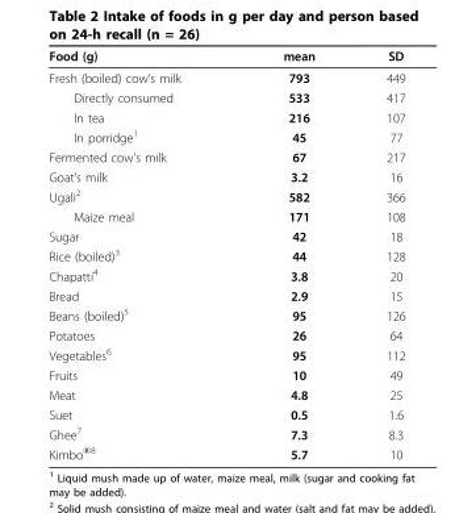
<table><thead><tr><td>Food (g)</td><td>mean</td><td>SD</td></tr></thead><tbody><tr><td>Fresh (boiled) cow’s milk</td><td>793</td><td>449</td></tr><tr><td>Directly consumed</td><td>533</td><td>417</td></tr><tr><td>In tea</td><td>216</td><td>107</td></tr><tr><td>In porridge<sup>1</sup></td><td>45</td><td>77</td></tr><tr><td>Fermented cow’s milk</td><td>67</td><td>217</td></tr><tr><td>Goat’s milk</td><td>3.2</td><td>16</td></tr><tr><td>Ugali<sup>2</sup></td><td>582</td><td>366</td></tr><tr><td>Maize meal</td><td>171</td><td>108</td></tr><tr><td>Sugar</td><td>42</td><td>18</td></tr><tr><td>Rice (boiled)<sup>3</sup></td><td>44</td><td>128</td></tr><tr><td>Chapatti<sup>4</sup></td><td>3.8</td><td>20</td></tr><tr><td>Bread</td><td>2.9</td><td>15</td></tr><tr><td>Beans (boiled)<sup>5</sup></td><td>95</td><td>126</td></tr><tr><td>Potatoes</td><td>26</td><td>64</td></tr><tr><td>Vegetables<sup>6</sup></td><td>95</td><td>112</td></tr><tr><td>Fruits</td><td>10</td><td>49</td></tr><tr><td>Meat</td><td>4.8</td><td>25</td></tr><tr><td>Suet</td><td>0.5</td><td>1.6</td></tr><tr><td>Ghee<sup>7</sup></td><td>7.3</td><td>8.3</td></tr><tr><td>Kimbo<sup>®8</sup></td><td>5.7</td><td>10</td></tr></tbody></table>